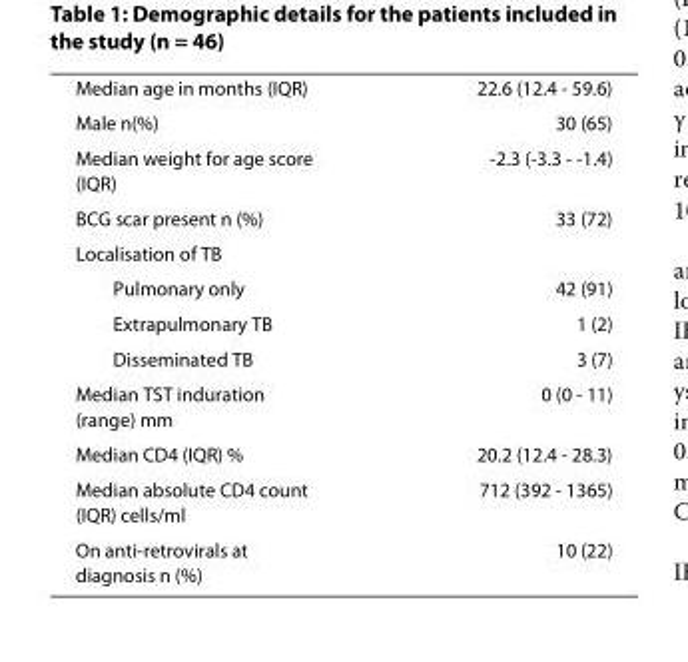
<table><tbody><tr><td>Median age in months (IQR)</td><td>22.6 (12.4 - 59.6)</td></tr><tr><td>Male n(%)</td><td>30 (65)</td></tr><tr><td>Median weight for age score (IQR)</td><td>-2.3 (-3.3 - -1.4)</td></tr><tr><td>BCG scar present n (%)</td><td>33 (72)</td></tr><tr><td colspan="2">Localisation of TB</td></tr><tr><td>Pulmonary only</td><td>42 (91)</td></tr><tr><td>Extrapulmonary TB</td><td>1 (2)</td></tr><tr><td>Disseminated TB</td><td>3 (7)</td></tr><tr><td>Median TST induration (range) mm</td><td>0 (0 - 11)</td></tr><tr><td>Median CD4 (IQR) %</td><td>20.2 (12.4 - 28.3)</td></tr><tr><td>Median absolute CD4 count (IQR) cells/ml</td><td>712 (392 - 1365)</td></tr><tr><td>On anti-retrovirals at diagnosis n (%)</td><td>10 (22)</td></tr></tbody></table>